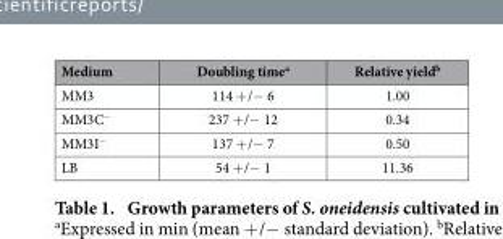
<table><thead><tr><td>Medium</td><td>Doubling time<sup>a</sup></td><td>Relative yield<sup>b</sup></td></tr></thead><tbody><tr><td>MM3</td><td>114 + /− 6</td><td>1.00</td></tr><tr><td>MM3C<sup>−</sup></td><td>237 + /− 12</td><td>0.34</td></tr><tr><td>MM3I<sup>−</sup></td><td>137 + /− 7</td><td>0.50</td></tr><tr><td>LB</td><td>54 + /− 1</td><td>11.36</td></tr></tbody></table>